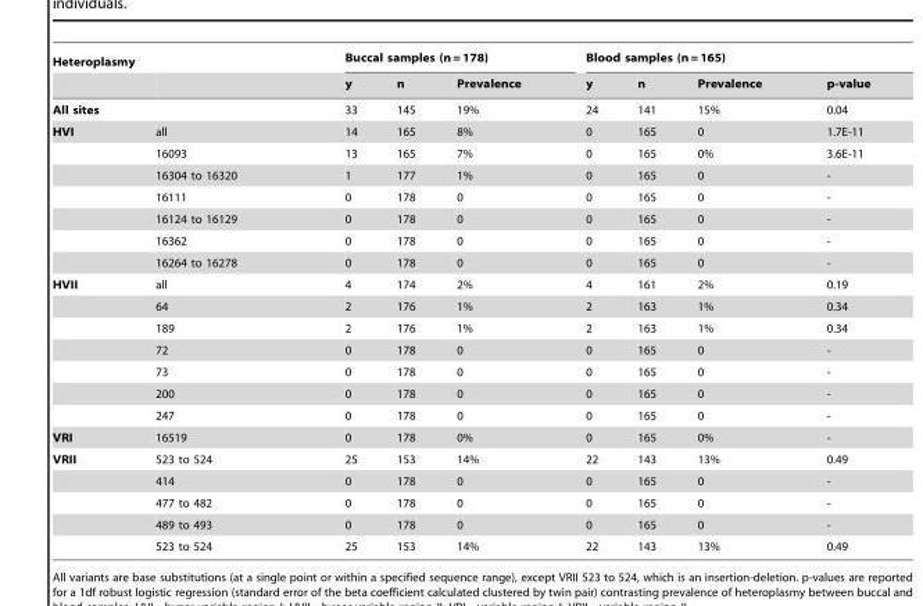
<table><thead><tr><td colspan="2">Heteroplasmy</td><td colspan="3">Buccal samples (n = 178)</td><td colspan="4">Blood samples (n = 165)</td></tr><tr><td></td><td></td><td>y</td><td>n</td><td>Prevalence</td><td>y</td><td>n</td><td>Prevalence</td><td>p-value</td></tr></thead><tbody><tr><td>All sites</td><td></td><td>33</td><td>145</td><td>19%</td><td>24</td><td>141</td><td>15%</td><td>0.04</td></tr><tr><td rowspan="7">HVI</td><td>all</td><td>14</td><td>165</td><td>8%</td><td>0</td><td>165</td><td>0</td><td>1.7E-11</td></tr><tr><td>16093</td><td>13</td><td>165</td><td>7%</td><td>0</td><td>165</td><td>0%</td><td>3.6E-11</td></tr><tr><td>16304 to 16320</td><td>1</td><td>177</td><td>1%</td><td>0</td><td>165</td><td>0</td><td>-</td></tr><tr><td>16111</td><td>0</td><td>178</td><td>0</td><td>0</td><td>165</td><td>0</td><td>-</td></tr><tr><td>16124 to 16129</td><td>0</td><td>178</td><td>0</td><td>0</td><td>165</td><td>0</td><td>-</td></tr><tr><td>16362</td><td>0</td><td>178</td><td>0</td><td>0</td><td>165</td><td>0</td><td>-</td></tr><tr><td>16264 to 16278</td><td>0</td><td>178</td><td>0</td><td>0</td><td>165</td><td>0</td><td>-</td></tr><tr><td rowspan="7">HVII</td><td>all</td><td>4</td><td>174</td><td>2%</td><td>4</td><td>161</td><td>2%</td><td>0.19</td></tr><tr><td>64</td><td>2</td><td>176</td><td>1%</td><td>2</td><td>163</td><td>1%</td><td>0.34</td></tr><tr><td>189</td><td>2</td><td>176</td><td>1%</td><td>2</td><td>163</td><td>1%</td><td>0.34</td></tr><tr><td>72</td><td>0</td><td>178</td><td>0</td><td>0</td><td>165</td><td>0</td><td>-</td></tr><tr><td>73</td><td>0</td><td>178</td><td>0</td><td>0</td><td>165</td><td>0</td><td>-</td></tr><tr><td>200</td><td>0</td><td>178</td><td>0</td><td>0</td><td>165</td><td>0</td><td>-</td></tr><tr><td>247</td><td>0</td><td>178</td><td>0</td><td>0</td><td>165</td><td>0</td><td>-</td></tr><tr><td>VRI</td><td>16519</td><td>0</td><td>178</td><td>0%</td><td>0</td><td>165</td><td>0%</td><td>-</td></tr><tr><td rowspan="5">VRII</td><td>523 to 524</td><td>25</td><td>153</td><td>14%</td><td>22</td><td>143</td><td>13%</td><td>0.49</td></tr><tr><td>414</td><td>0</td><td>178</td><td>0</td><td>0</td><td>165</td><td>0</td><td>-</td></tr><tr><td>477 to 482</td><td>0</td><td>178</td><td>0</td><td>0</td><td>165</td><td>0</td><td>-</td></tr><tr><td>489 to 493</td><td>0</td><td>178</td><td>0</td><td>0</td><td>165</td><td>0</td><td>-</td></tr><tr><td>523 to 524</td><td>25</td><td>153</td><td>14%</td><td>22</td><td>143</td><td>13%</td><td>0.49</td></tr></tbody></table>